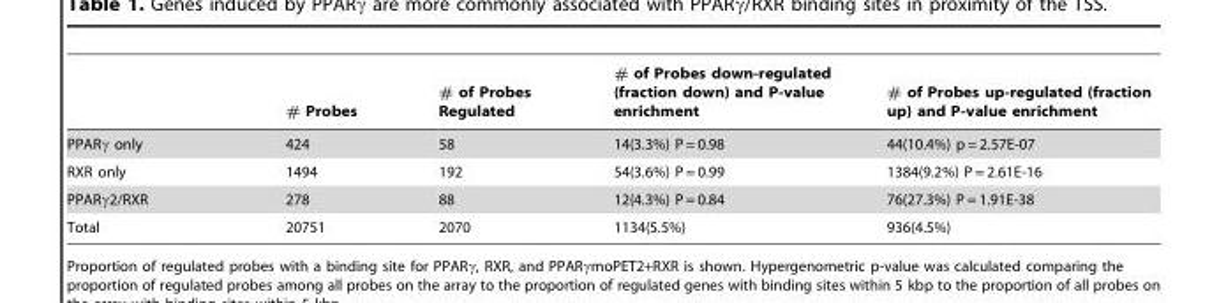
<table><thead><tr><td></td><td># Probes</td><td># of Probes Regulated</td><td># of Probes down-regulated (fraction down) and P-value enrichment</td><td># of Probes up-regulated (fraction up) and P-value enrichment</td></tr></thead><tbody><tr><td>PPARγ only</td><td>424</td><td>58</td><td>14(3.3%) P = 0.98</td><td>44(10.4%) p = 2.57E-07</td></tr><tr><td>RXR only</td><td>1494</td><td>192</td><td>54(3.6%) P = 0.99</td><td>1384(9.2%) P = 2.61E-16</td></tr><tr><td>PPARγ2/RXR</td><td>278</td><td>88</td><td>12(4.3%) P = 0.84</td><td>76(27.3%) P = 1.91E-38</td></tr><tr><td>Total</td><td>20751</td><td>2070</td><td>1134(5.5%)</td><td>936(4.5%)</td></tr></tbody></table>